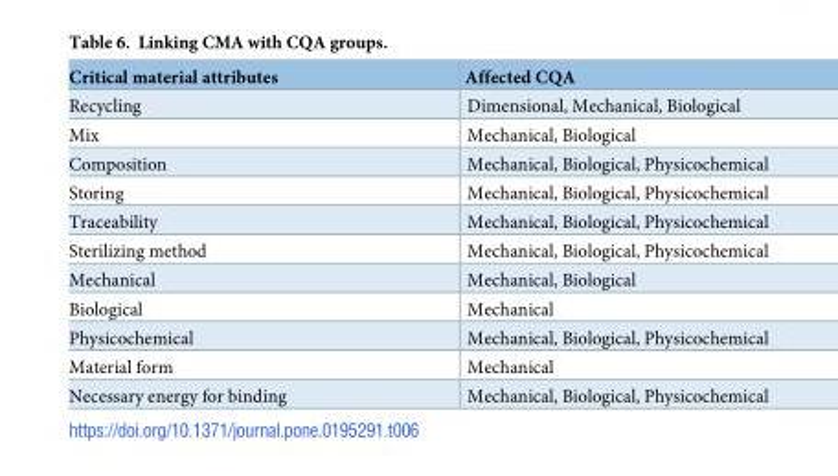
<table><thead><tr><td>Critical material attributes</td><td>Affected CQA</td></tr></thead><tbody><tr><td>Recycling</td><td>Dimensional, Mechanical, Biological</td></tr><tr><td>Mix</td><td>Mechanical, Biological</td></tr><tr><td>Composition</td><td>Mechanical, Biological, Physicochemical</td></tr><tr><td>Storing</td><td>Mechanical, Biological, Physicochemical</td></tr><tr><td>Traceability</td><td>Mechanical, Biological, Physicochemical</td></tr><tr><td>Sterilizing method</td><td>Mechanical, Biological, Physicochemical</td></tr><tr><td>Mechanical</td><td>Mechanical, Biological</td></tr><tr><td>Biological</td><td>Mechanical</td></tr><tr><td>Physicochemical</td><td>Mechanical, Biological, Physicochemical</td></tr><tr><td>Material form</td><td>Mechanical</td></tr><tr><td>Necessary energy for binding</td><td>Mechanical, Biological, Physicochemical</td></tr></tbody></table>